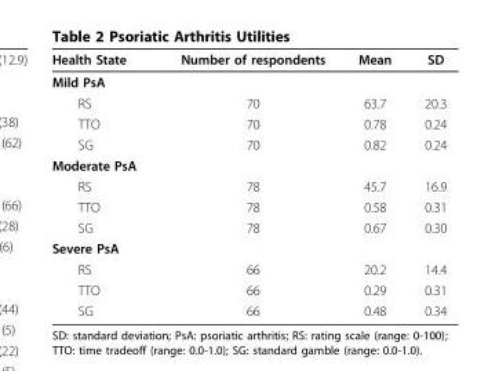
<table><thead><tr><td>Health State</td><td>Number of respondents</td><td>Mean</td><td>SD</td></tr></thead><tbody><tr><td colspan="4">Mild PsA</td></tr><tr><td>RS</td><td>70</td><td>63.7</td><td>20.3</td></tr><tr><td>TTO</td><td>70</td><td>0.78</td><td>0.24</td></tr><tr><td>SG</td><td>70</td><td>0.82</td><td>0.24</td></tr><tr><td colspan="4">Moderate PsA</td></tr><tr><td>RS</td><td>78</td><td>45.7</td><td>16.9</td></tr><tr><td>TTO</td><td>78</td><td>0.58</td><td>0.31</td></tr><tr><td>SG</td><td>78</td><td>0.67</td><td>0.30</td></tr><tr><td colspan="4">Severe PsA</td></tr><tr><td>RS</td><td>66</td><td>20.2</td><td>14.4</td></tr><tr><td>TTO</td><td>66</td><td>0.29</td><td>0.31</td></tr><tr><td>SG</td><td>66</td><td>0.48</td><td>0.34</td></tr></tbody></table>